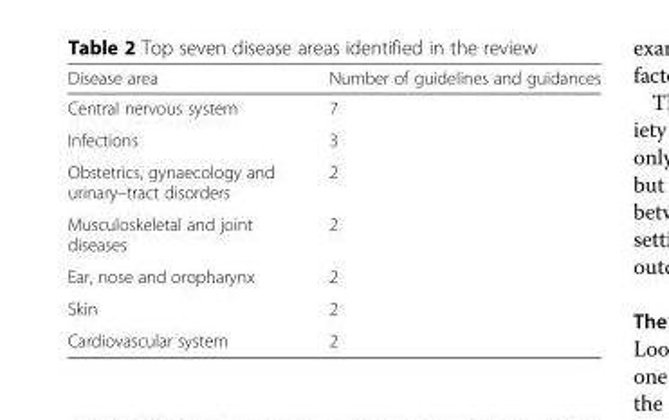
<table><thead><tr><td>Disease area</td><td>Number of guidelines and guidances</td></tr></thead><tbody><tr><td>Central nervous system</td><td>7</td></tr><tr><td>Infections</td><td>3</td></tr><tr><td>Obstetrics, gynaecology and urinary–tract disorders</td><td>2</td></tr><tr><td>Musculoskeletal and joint diseases</td><td>2</td></tr><tr><td>Ear, nose and oropharynx</td><td>2</td></tr><tr><td>Skin</td><td>2</td></tr><tr><td>Cardiovascular system</td><td>2</td></tr></tbody></table>